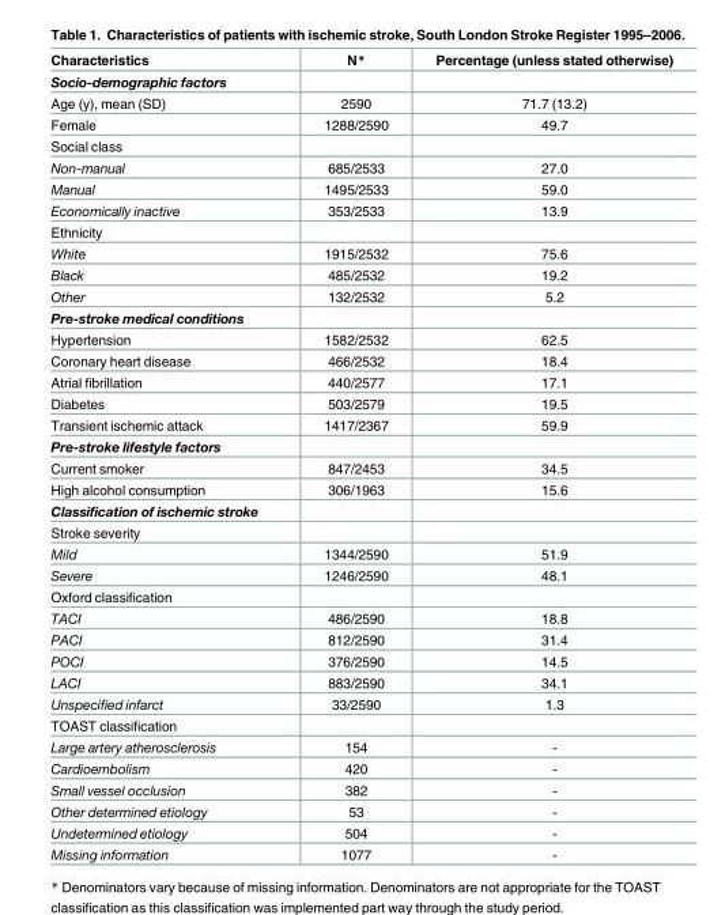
<table><thead><tr><td>Characteristics</td><td>N*</td><td>Percentage (unless stated otherwise)</td></tr></thead><tbody><tr><td colspan="3">Socio-demographic factors</td></tr><tr><td>Age (y), mean (SD)</td><td>2590</td><td>71.7 (13.2)</td></tr><tr><td>Female</td><td>1288/2590</td><td>49.7</td></tr><tr><td colspan="3">Social class</td></tr><tr><td>Non-manual</td><td>685/2533</td><td>27.0</td></tr><tr><td>Manual</td><td>1495/2533</td><td>59.0</td></tr><tr><td>Economically inactive</td><td>353/2533</td><td>13.9</td></tr><tr><td colspan="3">Ethnicity</td></tr><tr><td>White</td><td>1915/2532</td><td>75.6</td></tr><tr><td>Black</td><td>485/2532</td><td>19.2</td></tr><tr><td>Other</td><td>132/2532</td><td>5.2</td></tr><tr><td colspan="3">Pre-stroke medical conditions</td></tr><tr><td>Hypertension</td><td>1582/2532</td><td>62.5</td></tr><tr><td>Coronary heart disease</td><td>466/2532</td><td>18.4</td></tr><tr><td>Atrial fibrillation</td><td>440/2577</td><td>17.1</td></tr><tr><td>Diabetes</td><td>503/2579</td><td>19.5</td></tr><tr><td>Transient ischemic attack</td><td>1417/2367</td><td>59.9</td></tr><tr><td colspan="3">Pre-stroke lifestyle factors</td></tr><tr><td>Current smoker</td><td>847/2453</td><td>34.5</td></tr><tr><td>High alcohol consumption</td><td>306/1963</td><td>15.6</td></tr><tr><td colspan="3">Classification of ischemic stroke</td></tr><tr><td colspan="3">Stroke severity</td></tr><tr><td>Mild</td><td>1344/2590</td><td>51.9</td></tr><tr><td>Severe</td><td>1246/2590</td><td>48.1</td></tr><tr><td colspan="3">Oxford classification</td></tr><tr><td>TACI</td><td>486/2590</td><td>18.8</td></tr><tr><td>PACI</td><td>812/2590</td><td>31.4</td></tr><tr><td>POCI</td><td>376/2590</td><td>14.5</td></tr><tr><td>LACI</td><td>883/2590</td><td>34.1</td></tr><tr><td>Unspecified infarct</td><td>33/2590</td><td>1.3</td></tr><tr><td colspan="3">TOAST classification</td></tr><tr><td>Large artery atherosclerosis</td><td>154</td><td>-</td></tr><tr><td>Cardioembolism</td><td>420</td><td>-</td></tr><tr><td>Small vessel occlusion</td><td>382</td><td>-</td></tr><tr><td>Other determined etiology</td><td>53</td><td>-</td></tr><tr><td>Undetermined etiology</td><td>504</td><td>-</td></tr><tr><td>Missing information</td><td>1077</td><td>-</td></tr></tbody></table>